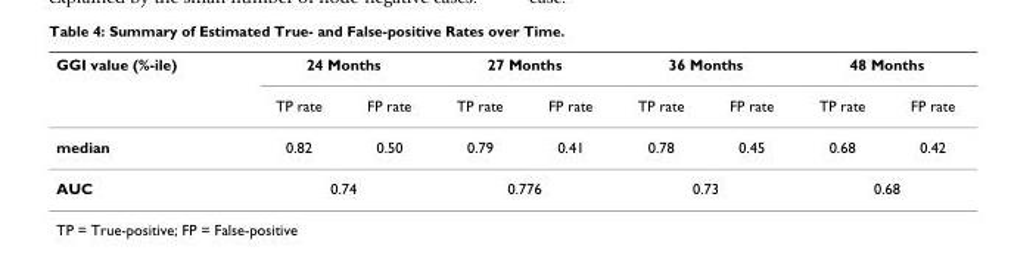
<table><thead><tr><td rowspan="2">GGI value (%-ile)</td><td colspan="2">24 Months</td><td colspan="2">27 Months</td><td colspan="2">36 Months</td><td colspan="2">48 Months</td></tr><tr><td>TP rate</td><td>FP rate</td><td>TP rate</td><td>FP rate</td><td>TP rate</td><td>FP rate</td><td>TP rate</td><td>FP rate</td></tr></thead><tbody><tr><td>median</td><td>0.82</td><td>0.50</td><td>0.79</td><td>0.41</td><td>0.78</td><td>0.45</td><td>0.68</td><td>0.42</td></tr><tr><td>AUC</td><td colspan="2">0.74</td><td colspan="2">0.776</td><td colspan="2">0.73</td><td colspan="2">0.68</td></tr></tbody></table>